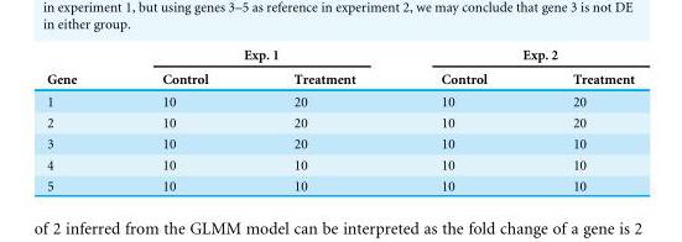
<table><thead><tr><td rowspan="2">Gene</td><td colspan="2">Exp. 1</td><td colspan="2">Exp. 2</td></tr><tr><td>Control</td><td>Treatment</td><td>Control</td><td>Treatment</td></tr></thead><tbody><tr><td>1</td><td>10</td><td>20</td><td>10</td><td>20</td></tr><tr><td>2</td><td>10</td><td>20</td><td>10</td><td>20</td></tr><tr><td>3</td><td>10</td><td>20</td><td>10</td><td>10</td></tr><tr><td>4</td><td>10</td><td>10</td><td>10</td><td>10</td></tr><tr><td>5</td><td>10</td><td>10</td><td>10</td><td>10</td></tr></tbody></table>